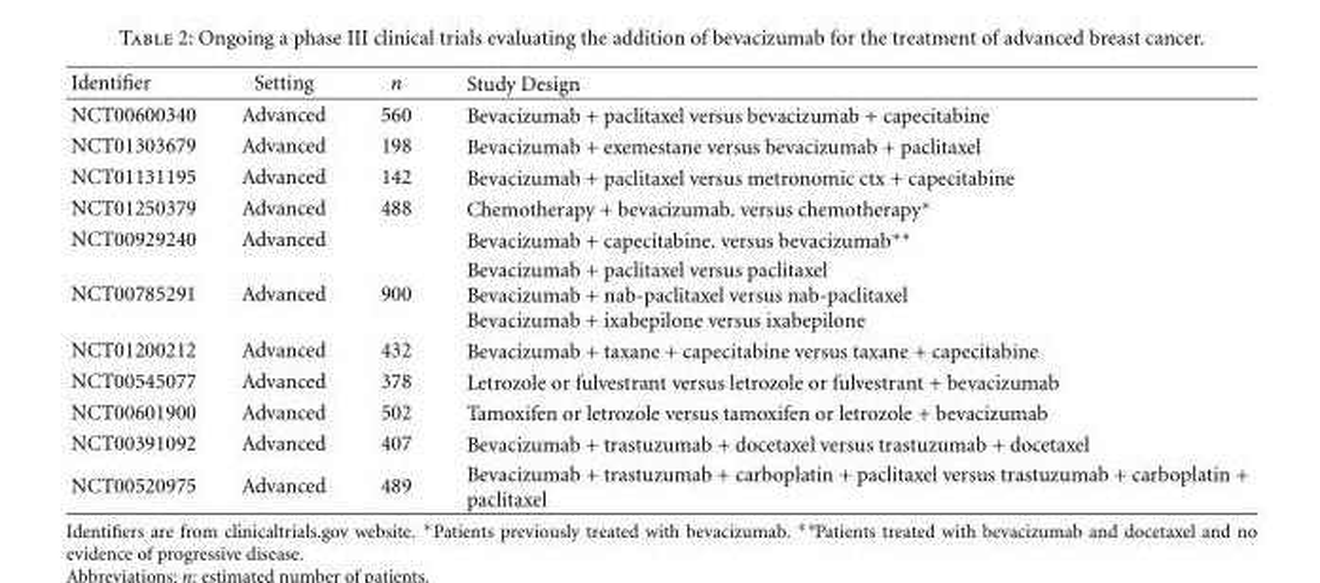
<table><thead><tr><td>Identifier</td><td>Setting</td><td>n</td><td>Study Design</td></tr></thead><tbody><tr><td>NCT00600340</td><td>Advanced</td><td>560</td><td>Bevacizumab + paclitaxel versus bevacizumab + capecitabine</td></tr><tr><td>NCT01303679</td><td>Advanced</td><td>198</td><td>Bevacizumab + exemestane versus bevacizumab + paclitaxel</td></tr><tr><td>NCT01131195</td><td>Advanced</td><td>142</td><td>Bevacizumab + paclitaxel versus metronomic ctx + capecitabine</td></tr><tr><td>NCT01250379</td><td>Advanced</td><td>488</td><td>Chemotherapy + bevacizumab. versus chemotherapy∗</td></tr><tr><td>NCT00929240</td><td>Advanced</td><td></td><td>Bevacizumab + capecitabine. versus bevacizumab∗∗</td></tr><tr><td>NCT00785291</td><td>Advanced</td><td>900</td><td>Bevacizumab + paclitaxel versus paclitaxel Bevacizumab + nab-paclitaxel versus nab-paclitaxel Bevacizumab + ixabepilone versus ixabepilone</td></tr><tr><td>NCT01200212</td><td>Advanced</td><td>432</td><td>Bevacizumab + taxane + capecitabine versus taxane + capecitabine</td></tr><tr><td>NCT00545077</td><td>Advanced</td><td>378</td><td>Letrozole or fulvestrant versus letrozole or fulvestrant + bevacizumab</td></tr><tr><td>NCT00601900</td><td>Advanced</td><td>502</td><td>Tamoxifen or letrozole versus tamoxifen or letrozole + bevacizumab</td></tr><tr><td>NCT00391092</td><td>Advanced</td><td>407</td><td>Bevacizumab + trastuzumab + docetaxel versus trastuzumab + docetaxel</td></tr><tr><td>NCT00520975</td><td>Advanced</td><td>489</td><td>Bevacizumab + trastuzumab + carboplatin + paclitaxel versus trastuzumab + carboplatin + paclitaxel</td></tr></tbody></table>